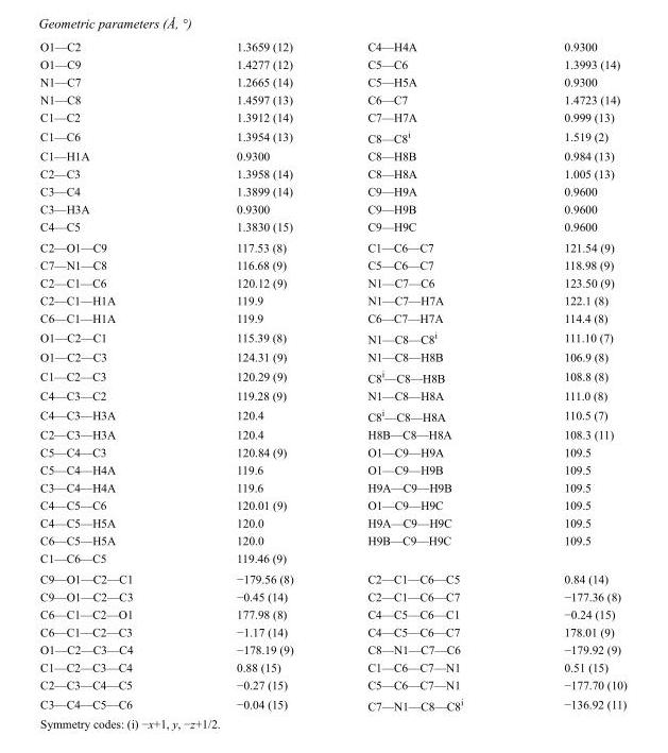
<table><tbody><tr><td>O1—C2</td><td>1.3659 (12)</td><td>C4—H4A</td><td>0.9300</td></tr><tr><td>O1—C9</td><td>1.4277 (12)</td><td>C5—C6</td><td>1.3993 (14)</td></tr><tr><td>N1—C7</td><td>1.2665 (14)</td><td>C5—H5A</td><td>0.9300</td></tr><tr><td>N1—C8</td><td>1.4597 (13)</td><td>C6—C7</td><td>1.4723 (14)</td></tr><tr><td>C1—C2</td><td>1.3912 (14)</td><td>C7—H7A</td><td>0.999 (13)</td></tr><tr><td>C1—C6</td><td>1.3954 (13)</td><td>C8—C8<sup>i</sup></td><td>1.519 (2)</td></tr><tr><td>C1—H1A</td><td>0.9300</td><td>C8—H8B</td><td>0.984 (13)</td></tr><tr><td>C2—C3</td><td>1.3958 (14)</td><td>C8—H8A</td><td>1.005 (13)</td></tr><tr><td>C3—C4</td><td>1.3899 (14)</td><td>C9—H9A</td><td>0.9600</td></tr><tr><td>C3—H3A</td><td>0.9300</td><td>C9—H9B</td><td>0.9600</td></tr><tr><td>C4—C5</td><td>1.3830 (15)</td><td>C9—H9C</td><td>0.9600</td></tr><tr><td>C2—O1—C9</td><td>117.53 (8)</td><td>C1—C6—C7</td><td>121.54 (9)</td></tr><tr><td>C7—N1—C8</td><td>116.68 (9)</td><td>C5—C6—C7</td><td>118.98 (9)</td></tr><tr><td>C2—C1—C6</td><td>120.12 (9)</td><td>N1—C7—C6</td><td>123.50 (9)</td></tr><tr><td>C2—C1—H1A</td><td>119.9</td><td>N1—C7—H7A</td><td>122.1 (8)</td></tr><tr><td>C6—C1—H1A</td><td>119.9</td><td>C6—C7—H7A</td><td>114.4 (8)</td></tr><tr><td>O1—C2—C1</td><td>115.39 (8)</td><td>N1—C8—C8<sup>i</sup></td><td>111.10 (7)</td></tr><tr><td>O1—C2—C3</td><td>124.31 (9)</td><td>N1—C8—H8B</td><td>106.9 (8)</td></tr><tr><td>C1—C2—C3</td><td>120.29 (9)</td><td>C8<sup>i</sup>—C8—H8B</td><td>108.8 (8)</td></tr><tr><td>C4—C3—C2</td><td>119.28 (9)</td><td>N1—C8—H8A</td><td>111.0 (8)</td></tr><tr><td>C4—C3—H3A</td><td>120.4</td><td>C8<sup>i</sup>—C8—H8A</td><td>110.5 (7)</td></tr><tr><td>C2—C3—H3A</td><td>120.4</td><td>H8B—C8—H8A</td><td>108.3 (11)</td></tr><tr><td>C5—C4—C3</td><td>120.84 (9)</td><td>O1—C9—H9A</td><td>109.5</td></tr><tr><td>C5—C4—H4A</td><td>119.6</td><td>O1—C9—H9B</td><td>109.5</td></tr><tr><td>C3—C4—H4A</td><td>119.6</td><td>H9A—C9—H9B</td><td>109.5</td></tr><tr><td>C4—C5—C6</td><td>120.01 (9)</td><td>O1—C9—H9C</td><td>109.5</td></tr><tr><td>C4—C5—H5A</td><td>120.0</td><td>H9A—C9—H9C</td><td>109.5</td></tr><tr><td>C6—C5—H5A</td><td>120.0</td><td>H9B—C9—H9C</td><td>109.5</td></tr><tr><td>C1—C6—C5</td><td>119.46 (9)</td><td></td><td></td></tr><tr><td>C9—O1—C2—C1</td><td>−179.56 (8)</td><td>C2—C1—C6—C5</td><td>0.84 (14)</td></tr><tr><td>C9—O1—C2—C3</td><td>−0.45 (14)</td><td>C2—C1—C6—C7</td><td>−177.36 (8)</td></tr><tr><td>C6—C1—C2—O1</td><td>177.98 (8)</td><td>C4—C5—C6—C1</td><td>−0.24 (15)</td></tr><tr><td>C6—C1—C2—C3</td><td>−1.17 (14)</td><td>C4—C5—C6—C7</td><td>178.01 (9)</td></tr><tr><td>O1—C2—C3—C4</td><td>−178.19 (9)</td><td>C8—N1—C7—C6</td><td>−179.92 (9)</td></tr><tr><td>C1—C2—C3—C4</td><td>0.88 (15)</td><td>C1—C6—C7—N1</td><td>0.51 (15)</td></tr><tr><td>C2—C3—C4—C5</td><td>−0.27 (15)</td><td>C5—C6—C7—N1</td><td>−177.70 (10)</td></tr><tr><td>C3—C4—C5—C6</td><td>−0.04 (15)</td><td>C7—N1—C8—C8<sup>i</sup></td><td>−136.92 (11)</td></tr></tbody></table>